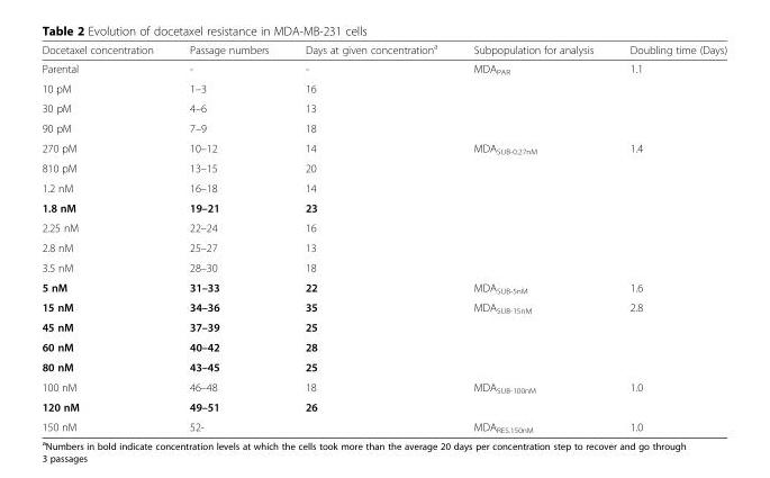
<table><thead><tr><td>Docetaxel concentration</td><td>Passage numbers</td><td>Days at given concentration<sup>a</sup></td><td>Subpopulation for analysis</td><td>Doubling time (Days)</td></tr></thead><tbody><tr><td>Parental</td><td>-</td><td>-</td><td>MDA<sub>PAR</sub></td><td>1.1</td></tr><tr><td>10 pM</td><td>1–3</td><td>16</td><td></td><td></td></tr><tr><td>30 pM</td><td>4–6</td><td>13</td><td></td><td></td></tr><tr><td>90 pM</td><td>7–9</td><td>18</td><td></td><td></td></tr><tr><td>270 pM</td><td>10–12</td><td>14</td><td>MDA<sub>SUB-0.27nM</sub></td><td>1.4</td></tr><tr><td>810 pM</td><td>13–15</td><td>20</td><td></td><td></td></tr><tr><td>1.2 nM</td><td>16–18</td><td>14</td><td></td><td></td></tr><tr><td>1.8 nM</td><td>19–21</td><td>23</td><td></td><td></td></tr><tr><td>2.25 nM</td><td>22–24</td><td>16</td><td></td><td></td></tr><tr><td>2.8 nM</td><td>25–27</td><td>13</td><td></td><td></td></tr><tr><td>3.5 nM</td><td>28–30</td><td>18</td><td></td><td></td></tr><tr><td>5 nM</td><td>31–33</td><td>22</td><td>MDA<sub>SUB-5nM</sub></td><td>1.6</td></tr><tr><td>15 nM</td><td>34–36</td><td>35</td><td>MDA<sub>SUB-15nM</sub></td><td>2.8</td></tr><tr><td>45 nM</td><td>37–39</td><td>25</td><td></td><td></td></tr><tr><td>60 nM</td><td>40–42</td><td>28</td><td></td><td></td></tr><tr><td>80 nM</td><td>43–45</td><td>25</td><td></td><td></td></tr><tr><td>100 nM</td><td>46–48</td><td>18</td><td>MDA<sub>SUB-100nM</sub></td><td>1.0</td></tr><tr><td>120 nM</td><td>49–51</td><td>26</td><td></td><td></td></tr><tr><td>150 nM</td><td>52-</td><td></td><td>MDA<sub>RES.150nM</sub></td><td>1.0</td></tr></tbody></table>